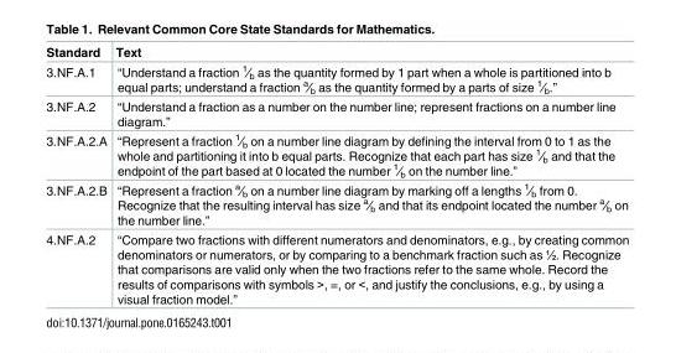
<table><thead><tr><td>Standard</td><td>Text</td></tr></thead><tbody><tr><td>3.NF.A.1</td><td>“Understand a fraction <sup>1</sup>∕<sub>b</sub> as the quantity formed by 1 part when a whole is partitioned into b equal parts; understand a fraction <sup>a</sup>∕<sub>b</sub> as the quantity formed by a parts of size <sup>1</sup>∕<sub>b</sub>.”</td></tr><tr><td>3.NF.A.2</td><td>“Understand a fraction as a number on the number line; represent fractions on a number line diagram.”</td></tr><tr><td>3.NF.A.2.A</td><td>“Represent a fraction <sup>1</sup>∕<sub>b</sub> on a number line diagram by defining the interval from 0 to 1 as the whole and partitioning it into b equal parts. Recognize that each part has size <sup>1</sup>∕<sub>b</sub> and that the endpoint of the part based at 0 located the number <sup>1</sup>∕<sub>b</sub> on the number line.”</td></tr><tr><td>3.NF.A.2.B</td><td>“Represent a fraction <sup>a</sup>∕<sub>b</sub> on a number line diagram by marking off a lengths <sup>1</sup>∕<sub>b</sub> from 0. Recognize that the resulting interval has size <sup>a</sup>∕<sub>b</sub> and that its endpoint located the number <sup>a</sup>∕<sub>b</sub> on the number line.”</td></tr><tr><td>4.NF.A.2</td><td>“Compare two fractions with different numerators and denominators, e.g., by creating common denominators or numerators, or by comparing to a benchmark fraction such as ½. Recognize that comparisons are valid only when the two fractions refer to the same whole. Record the results of comparisons with symbols &gt;, =, or &lt;, and justify the conclusions, e.g., by using a visual fraction model.”</td></tr></tbody></table>